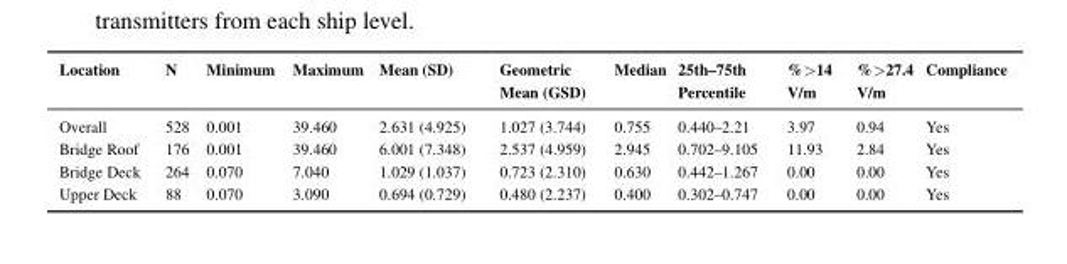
<table><thead><tr><td>Location</td><td>N</td><td>Minimum</td><td>Maximum</td><td>Mean (SD)</td><td>Geometric Mean (GSD)</td><td>Median</td><td>25th–75th Percentile</td><td>%&gt;14 V/m</td><td>%&gt;27.4 V/m</td><td>Compliance</td></tr></thead><tbody><tr><td>Overall</td><td>528</td><td>0.001</td><td>39.460</td><td>2.631 (4.925)</td><td>1.027 (3.744)</td><td>0.755</td><td>0.440–2.21</td><td>3.97</td><td>0.94</td><td>Yes</td></tr><tr><td>Bridge Roof</td><td>176</td><td>0.001</td><td>39.460</td><td>6.001 (7.348)</td><td>2.537 (4.959)</td><td>2.945</td><td>0.702–9.105</td><td>11.93</td><td>2.84</td><td>Yes</td></tr><tr><td>Bridge Deck</td><td>264</td><td>0.070</td><td>7.040</td><td>1.029 (1.037)</td><td>0.723 (2.310)</td><td>0.630</td><td>0.442–1.267</td><td>0.00</td><td>0.00</td><td>Yes</td></tr><tr><td>Upper Deck</td><td>88</td><td>0.070</td><td>3.090</td><td>0.694 (0.729)</td><td>0.480 (2.237)</td><td>0.400</td><td>0.302–0.747</td><td>0.00</td><td>0.00</td><td>Yes</td></tr></tbody></table>